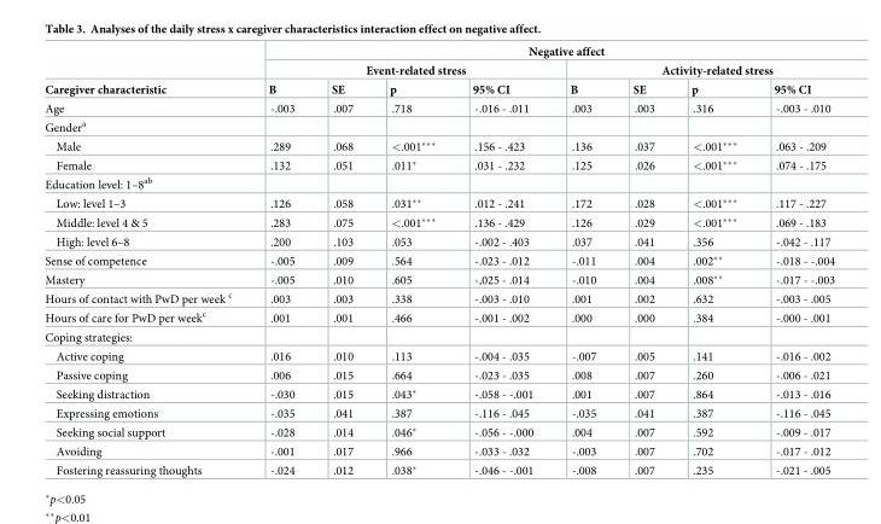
<table><thead><tr><td rowspan="3">Caregiver characteristic</td><td colspan="8">Negative affect</td></tr><tr><td colspan="4">Event-related stress</td><td colspan="4">Activity-related stress</td></tr><tr><td>B</td><td>SE</td><td>p</td><td>95% CI</td><td>B</td><td>SE</td><td>p</td><td>95% CI</td></tr></thead><tbody><tr><td>Age</td><td>-.003</td><td>.007</td><td>.718</td><td>-.016 - .011</td><td>.003</td><td>.003</td><td>.316</td><td>-.003 - .010</td></tr><tr><td colspan="9">Gender<sup>a</sup></td></tr><tr><td>Male</td><td>.289</td><td>.068</td><td>&lt;.001***</td><td>.156 - .423</td><td>.136</td><td>.037</td><td>&lt;.001***</td><td>.063 - .209</td></tr><tr><td>Female</td><td>.132</td><td>.051</td><td>.011*</td><td>.031 - .232</td><td>.125</td><td>.026</td><td>&lt;.001***</td><td>.074 - .175</td></tr><tr><td colspan="9">Education level: 1–8<sup>ab</sup></td></tr><tr><td>Low: level 1–3</td><td>.126</td><td>.058</td><td>.031**</td><td>.012 - .241</td><td>.172</td><td>.028</td><td>&lt;.001***</td><td>.117 - .227</td></tr><tr><td>Middle: level 4 &amp; 5</td><td>.283</td><td>.075</td><td>&lt;.001***</td><td>.136 - .429</td><td>.126</td><td>.029</td><td>&lt;.001***</td><td>.069 - .183</td></tr><tr><td>High: level 6–8</td><td>.200</td><td>.103</td><td>.053</td><td>-.002 - .403</td><td>.037</td><td>.041</td><td>.356</td><td>-.042 - .117</td></tr><tr><td>Sense of competence</td><td>-.005</td><td>.009</td><td>.564</td><td>-.023 - .012</td><td>-.011</td><td>.004</td><td>.002**</td><td>-.018 - -.004</td></tr><tr><td>Mastery</td><td>-.005</td><td>.010</td><td>.605</td><td>-,025 - .014</td><td>-.010</td><td>.004</td><td>.008**</td><td>-.017 - -.003</td></tr><tr><td>Hours of contact with PwD per week <sup>c</sup></td><td>.003</td><td>.003</td><td>.338</td><td>-.003 - .010</td><td>.001</td><td>.002</td><td>.632</td><td>-.003 - .005</td></tr><tr><td>Hours of care for PwD per week<sup>c</sup></td><td>.001</td><td>.001</td><td>.466</td><td>-.001 - .002</td><td>.000</td><td>.000</td><td>.384</td><td>-.000 - .001</td></tr><tr><td colspan="9">Coping strategies:</td></tr><tr><td>Active coping</td><td>.016</td><td>.010</td><td>.113</td><td>-.004 - .035</td><td>-.007</td><td>.005</td><td>.141</td><td>-.016 - .002</td></tr><tr><td>Passive coping</td><td>.006</td><td>.015</td><td>.664</td><td>-.023 - .035</td><td>.008</td><td>.007</td><td>.260</td><td>-.006 - .021</td></tr><tr><td>Seeking distraction</td><td>-.030</td><td>.015</td><td>.043*</td><td>-.058 - -.001</td><td>.001</td><td>.007</td><td>.864</td><td>-.013 - .016</td></tr><tr><td>Expressing emotions</td><td>-.035</td><td>.041</td><td>.387</td><td>-.116 - .045</td><td>-.035</td><td>.041</td><td>.387</td><td>-.116 - .045</td></tr><tr><td>Seeking social support</td><td>-.028</td><td>.014</td><td>.046*</td><td>-.056 - -.000</td><td>.004</td><td>.007</td><td>.592</td><td>-.009 - .017</td></tr><tr><td>Avoiding</td><td>-.001</td><td>.017</td><td>.966</td><td>-.033 - .032</td><td>-.003</td><td>.007</td><td>.702</td><td>-.017 - .012</td></tr><tr><td>Fostering reassuring thoughts</td><td>-.024</td><td>.012</td><td>.038*</td><td>-.046 - -.001</td><td>-.008</td><td>.007</td><td>.235</td><td>-.021 - .005</td></tr></tbody></table>